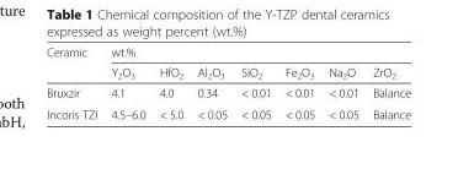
<table><thead><tr><td rowspan="2">Ceramic</td><td colspan="7">wt.%</td></tr><tr><td>Y<sub>2</sub>O<sub>3</sub></td><td>HfO<sub>2</sub></td><td>Al<sub>2</sub>O<sub>3</sub></td><td>SiO<sub>2</sub></td><td>Fe<sub>2</sub>O<sub>3</sub></td><td>Na<sub>2</sub>O</td><td>ZrO<sub>2</sub></td></tr></thead><tbody><tr><td>Bruxzir</td><td>4.1</td><td>4.0</td><td>0.34</td><td>&lt; 0.01</td><td>&lt; 0.01</td><td>&lt; 0.01</td><td>Balance</td></tr><tr><td>Incoris TZI</td><td>4.5–6.0</td><td>&lt; 5.0</td><td>&lt; 0.05</td><td>&lt; 0.05</td><td>&lt; 0.05</td><td>&lt; 0.05</td><td>Balance</td></tr></tbody></table>